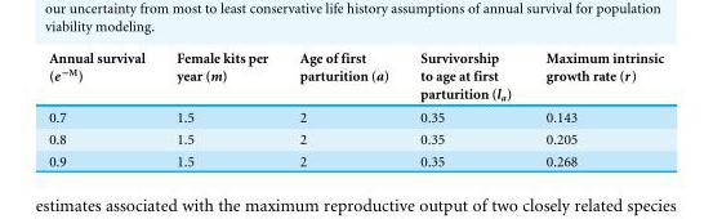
<table><thead><tr><td>Annual survival (e<sup>−M</sup>)</td><td>Female kits per year (m)</td><td>Age of first parturition (a)</td><td>Survivorship to age at first parturition (l<sub>a</sub>)</td><td>Maximum intrinsic growth rate (r)</td></tr></thead><tbody><tr><td>0.7</td><td>1.5</td><td>2</td><td>0.35</td><td>0.143</td></tr><tr><td>0.8</td><td>1.5</td><td>2</td><td>0.35</td><td>0.205</td></tr><tr><td>0.9</td><td>1.5</td><td>2</td><td>0.35</td><td>0.268</td></tr></tbody></table>